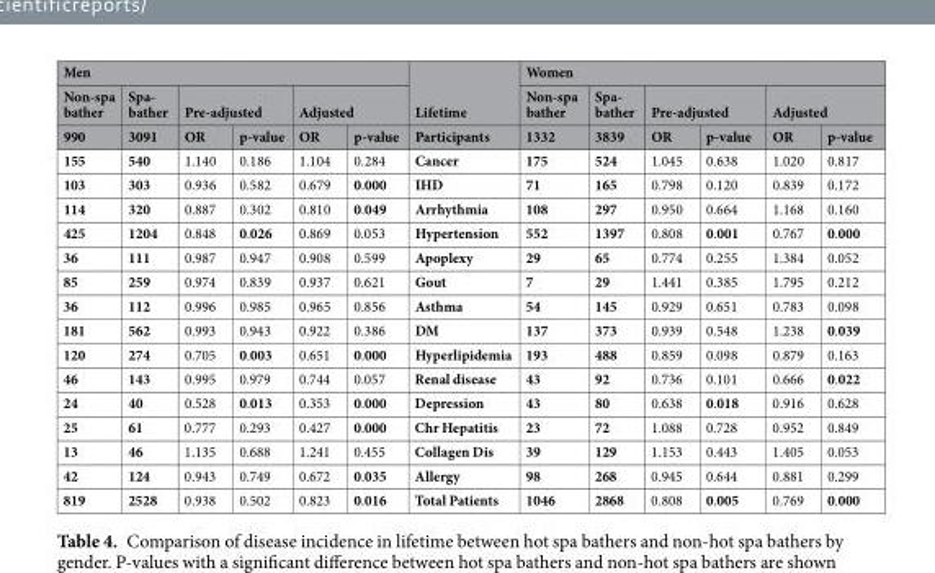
<table><thead><tr><td colspan="6">Men</td><td rowspan="3">Lifetime Participants</td><td colspan="6">Women</td></tr><tr><td rowspan="2">Non-spa bather 990</td><td rowspan="2">Spa- bather 3091</td><td colspan="2">Pre-adjusted</td><td colspan="2">Adjusted</td><td rowspan="2">Non-spa bather 1332</td><td rowspan="2">Spa- bather 3839</td><td colspan="2">Pre-adjusted</td><td colspan="2">Adjusted</td></tr><tr><td>OR</td><td>p-value</td><td>OR</td><td>p-value</td><td>OR</td><td>p-value</td><td>OR</td><td>p-value</td></tr></thead><tbody><tr><td>155</td><td>540</td><td>1.140</td><td>0.186</td><td>1.104</td><td>0.284</td><td>Cancer</td><td>175</td><td>524</td><td>1.045</td><td>0.638</td><td>1.020</td><td>0.817</td></tr><tr><td>103</td><td>303</td><td>0.936</td><td>0.582</td><td>0.679</td><td>0.000</td><td>IHD</td><td>71</td><td>165</td><td>0.798</td><td>0.120</td><td>0.839</td><td>0.172</td></tr><tr><td>114</td><td>320</td><td>0.887</td><td>0.302</td><td>0.810</td><td>0.049</td><td>Arrhythmia</td><td>108</td><td>297</td><td>0.950</td><td>0.664</td><td>1.168</td><td>0.160</td></tr><tr><td>425</td><td>1204</td><td>0.848</td><td>0.026</td><td>0.869</td><td>0.053</td><td>Hypertension</td><td>552</td><td>1397</td><td>0.808</td><td>0.001</td><td>0.767</td><td>0.000</td></tr><tr><td>36</td><td>111</td><td>0.987</td><td>0.947</td><td>0.908</td><td>0.599</td><td>Apoplexy</td><td>29</td><td>65</td><td>0.774</td><td>0.255</td><td>1.384</td><td>0.052</td></tr><tr><td>85</td><td>259</td><td>0.974</td><td>0.839</td><td>0.937</td><td>0.621</td><td>Gout</td><td>7</td><td>29</td><td>1.441</td><td>0.385</td><td>1.795</td><td>0.212</td></tr><tr><td>36</td><td>112</td><td>0.996</td><td>0.985</td><td>0.965</td><td>0.856</td><td>Asthma</td><td>54</td><td>145</td><td>0.929</td><td>0.651</td><td>0.783</td><td>0.098</td></tr><tr><td>181</td><td>562</td><td>0.993</td><td>0.943</td><td>0.922</td><td>0.386</td><td>DM</td><td>137</td><td>373</td><td>0.939</td><td>0.548</td><td>1.238</td><td>0.039</td></tr><tr><td>120</td><td>274</td><td>0.705</td><td>0.003</td><td>0.651</td><td>0.000</td><td>Hyperlipidemia</td><td>193</td><td>488</td><td>0.859</td><td>0.098</td><td>0.879</td><td>0.163</td></tr><tr><td>46</td><td>143</td><td>0.995</td><td>0.979</td><td>0.744</td><td>0.057</td><td>Renal disease</td><td>43</td><td>92</td><td>0.736</td><td>0.101</td><td>0.666</td><td>0.022</td></tr><tr><td>24</td><td>40</td><td>0.528</td><td>0.013</td><td>0.353</td><td>0.000</td><td>Depression</td><td>43</td><td>80</td><td>0.638</td><td>0.018</td><td>0.916</td><td>0.628</td></tr><tr><td>25</td><td>61</td><td>0.777</td><td>0.293</td><td>0.427</td><td>0.000</td><td>Chr Hepatitis</td><td>23</td><td>72</td><td>1.088</td><td>0.728</td><td>0.952</td><td>0.849</td></tr><tr><td>13</td><td>46</td><td>1.135</td><td>0.688</td><td>1.241</td><td>0.455</td><td>Collagen Dis</td><td>39</td><td>129</td><td>1.153</td><td>0.443</td><td>1.405</td><td>0.053</td></tr><tr><td>42</td><td>124</td><td>0.943</td><td>0.749</td><td>0.672</td><td>0.035</td><td>Allergy</td><td>98</td><td>268</td><td>0.945</td><td>0.644</td><td>0.881</td><td>0.299</td></tr><tr><td>819</td><td>2528</td><td>0.938</td><td>0.502</td><td>0.823</td><td>0.016</td><td>Total Patients</td><td>1046</td><td>2868</td><td>0.808</td><td>0.005</td><td>0.769</td><td>0.000</td></tr></tbody></table>